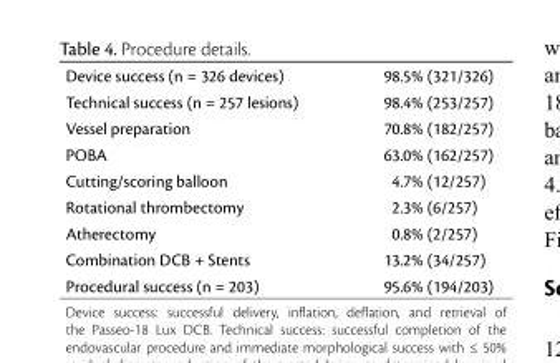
<table><tbody><tr><td>Device success (n = 326 devices)</td><td>98.5% (321/326)</td></tr><tr><td>Technical success (n = 257 lesions)</td><td>98.4% (253/257)</td></tr><tr><td>Vessel preparation</td><td>70.8% (182/257)</td></tr><tr><td>POBA</td><td>63.0% (162/257)</td></tr><tr><td>Cutting/scoring balloon</td><td>4.7% (12/257)</td></tr><tr><td>Rotational thrombectomy</td><td>2.3% (6/257)</td></tr><tr><td>Atherectomy</td><td>0.8% (2/257)</td></tr><tr><td>Combination DCB + Stents</td><td>13.2% (34/257)</td></tr><tr><td>Procedural success (n = 203)</td><td>95.6% (194/203)</td></tr></tbody></table>